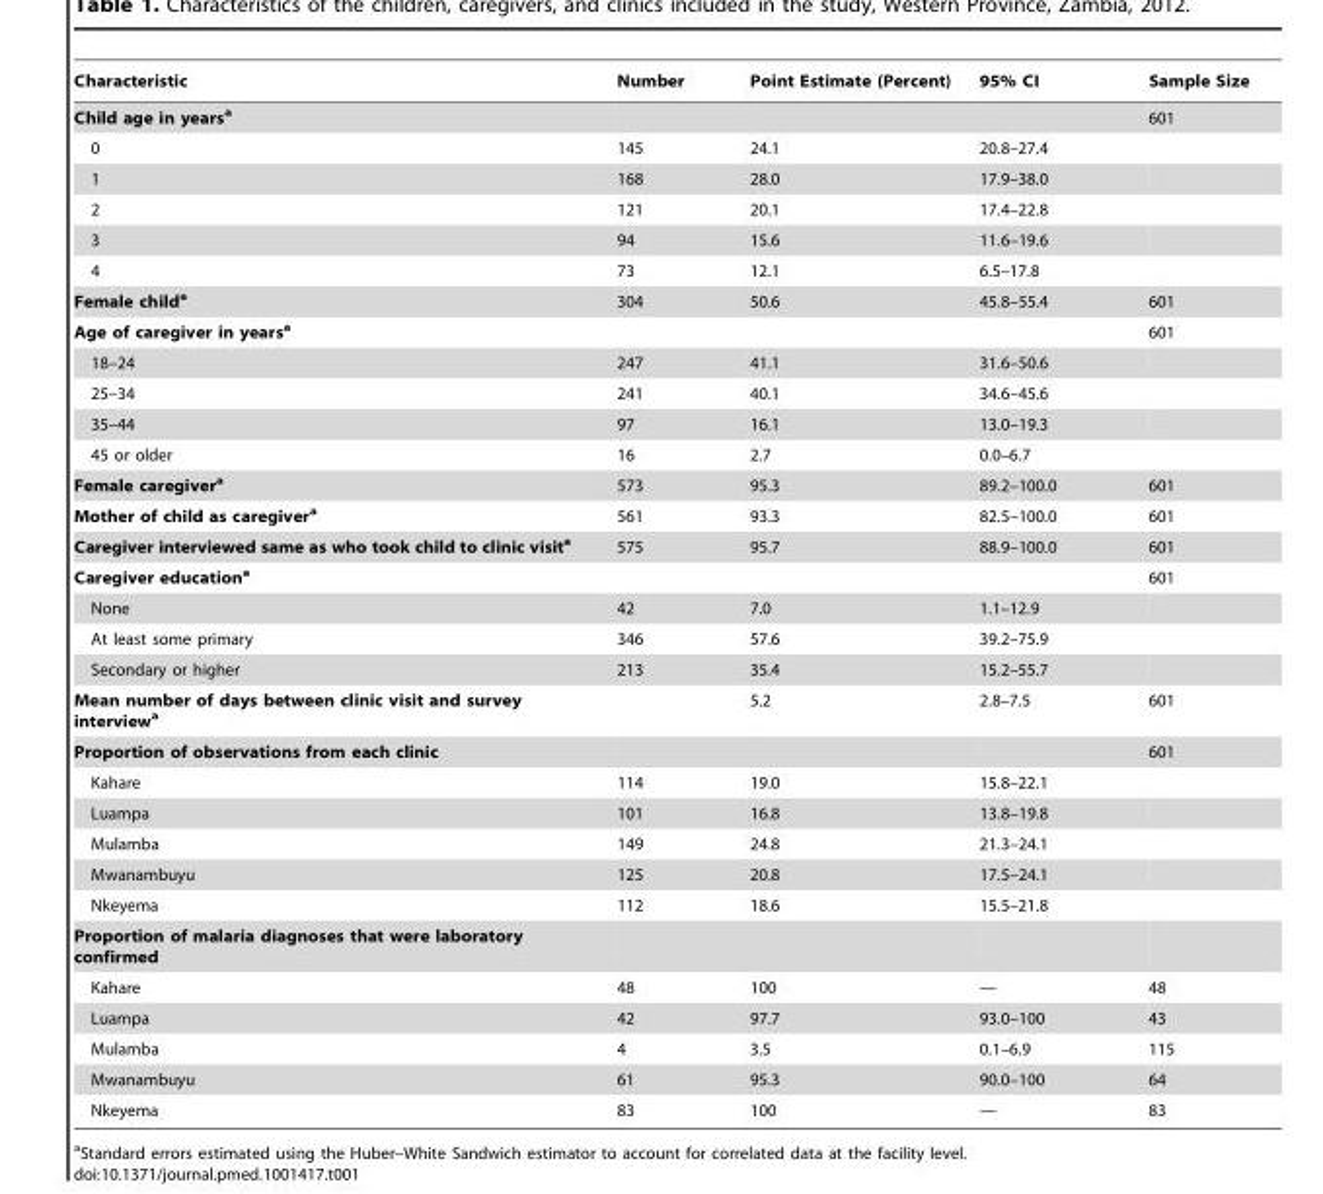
<table><thead><tr><td>Characteristic</td><td>Number</td><td>Point Estimate (Percent)</td><td>95% CI</td><td>Sample Size</td></tr></thead><tbody><tr><td>Child age in yearsa</td><td></td><td></td><td></td><td>601</td></tr><tr><td>0</td><td>145</td><td>24.1</td><td>20.8–27.4</td><td></td></tr><tr><td>1</td><td>168</td><td>28.0</td><td>17.9–38.0</td><td></td></tr><tr><td>2</td><td>121</td><td>20.1</td><td>17.4–22.8</td><td></td></tr><tr><td>3</td><td>94</td><td>15.6</td><td>11.6–19.6</td><td></td></tr><tr><td>4</td><td>73</td><td>12.1</td><td>6.5–17.8</td><td></td></tr><tr><td>Female childa</td><td>304</td><td>50.6</td><td>45.8–55.4</td><td>601</td></tr><tr><td>Age of caregiver in yearsa</td><td></td><td></td><td></td><td>601</td></tr><tr><td>18–24</td><td>247</td><td>41.1</td><td>31.6–50.6</td><td></td></tr><tr><td>25–34</td><td>241</td><td>40.1</td><td>34.6–45.6</td><td></td></tr><tr><td>35–44</td><td>97</td><td>16.1</td><td>13.0–19.3</td><td></td></tr><tr><td>45 or older</td><td>16</td><td>2.7</td><td>0.0–6.7</td><td></td></tr><tr><td>Female caregivera</td><td>573</td><td>95.3</td><td>89.2–100.0</td><td>601</td></tr><tr><td>Mother of child as caregivera</td><td>561</td><td>93.3</td><td>82.5–100.0</td><td>601</td></tr><tr><td>Caregiver interviewed same as who took child to clinic visita</td><td>575</td><td>95.7</td><td>88.9–100.0</td><td>601</td></tr><tr><td>Caregiver educationa</td><td></td><td></td><td></td><td>601</td></tr><tr><td>None</td><td>42</td><td>7.0</td><td>1.1–12.9</td><td></td></tr><tr><td>At least some primary</td><td>346</td><td>57.6</td><td>39.2–75.9</td><td></td></tr><tr><td>Secondary or higher</td><td>213</td><td>35.4</td><td>15.2–55.7</td><td></td></tr><tr><td>Mean number of days between clinic visit and survey interviewa</td><td></td><td>5.2</td><td>2.8–7.5</td><td>601</td></tr><tr><td>Proportion of observations from each clinic</td><td></td><td></td><td></td><td>601</td></tr><tr><td>Kahare</td><td>114</td><td>19.0</td><td>15.8–22.1</td><td></td></tr><tr><td>Luampa</td><td>101</td><td>16.8</td><td>13.8–19.8</td><td></td></tr><tr><td>Mulamba</td><td>149</td><td>24.8</td><td>21.3–24.1</td><td></td></tr><tr><td>Mwanambuyu</td><td>125</td><td>20.8</td><td>17.5–24.1</td><td></td></tr><tr><td>Nkeyema</td><td>112</td><td>18.6</td><td>15.5–21.8</td><td></td></tr><tr><td colspan="5">Proportion of malaria diagnoses that were laboratory confirmed</td></tr><tr><td>Kahare</td><td>48</td><td>100</td><td>—</td><td>48</td></tr><tr><td>Luampa</td><td>42</td><td>97.7</td><td>93.0–100</td><td>43</td></tr><tr><td>Mulamba</td><td>4</td><td>3.5</td><td>0.1–6.9</td><td>115</td></tr><tr><td>Mwanambuyu</td><td>61</td><td>95.3</td><td>90.0–100</td><td>64</td></tr><tr><td>Nkeyema</td><td>83</td><td>100</td><td>—</td><td>83</td></tr></tbody></table>